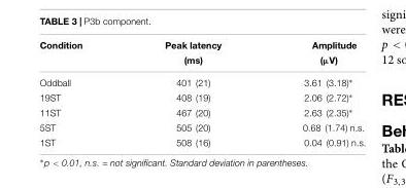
<table><thead><tr><td rowspan="2">Condition</td><td rowspan="2">Peak latency (ms)</td><td rowspan="2">Amplitude (µV)</td></tr><tr></tr></thead><tbody><tr><td>Oddball</td><td>401 (21)</td><td>3.61 (3.18)∗</td></tr><tr><td>19ST</td><td>408 (19)</td><td>2.06 (2.72)∗</td></tr><tr><td>11ST</td><td>467 (20)</td><td>2.63 (2.35)∗</td></tr><tr><td>5ST</td><td>505 (20)</td><td>0.68 (1.74) n.s.</td></tr><tr><td>1ST</td><td>508 (16)</td><td>0.04 (0.91) n.s.</td></tr></tbody></table>